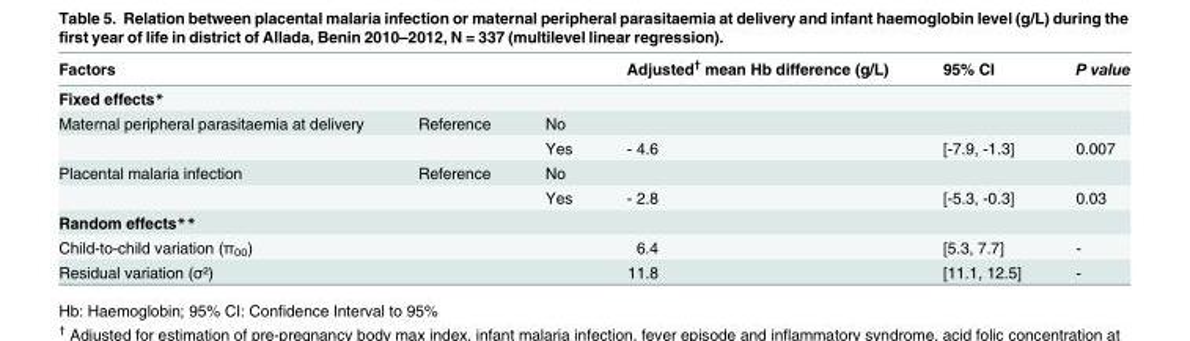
<table><thead><tr><td>Factors</td><td></td><td></td><td>Adjusted<sup>†</sup> mean Hb difference (g/L)</td><td>95% CI</td><td>P value</td></tr></thead><tbody><tr><td colspan="6">Fixed effects*</td></tr><tr><td rowspan="2">Maternal peripheral parasitaemia at delivery</td><td>Reference</td><td>No</td><td></td><td></td><td></td></tr><tr><td></td><td>Yes</td><td>- 4.6</td><td>[-7.9, -1.3]</td><td>0.007</td></tr><tr><td rowspan="2">Placental malaria infection</td><td>Reference</td><td>No</td><td></td><td></td><td></td></tr><tr><td></td><td>Yes</td><td>- 2.8</td><td>[-5.3, -0.3]</td><td>0.03</td></tr><tr><td colspan="6">Random effects**</td></tr><tr><td>Child-to-child variation (π<sub>00</sub>)</td><td></td><td></td><td>6.4</td><td>[5.3, 7.7]</td><td>-</td></tr><tr><td>Residual variation (σ²)</td><td></td><td></td><td>11.8</td><td>[11.1, 12.5]</td><td>-</td></tr></tbody></table>